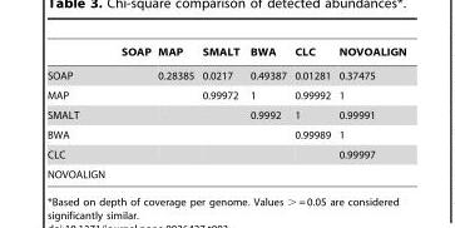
<table><thead><tr><td></td><td>SOAP</td><td>MAP</td><td>SMALT</td><td>BWA</td><td>CLC</td><td>NOVOALIGN</td></tr></thead><tbody><tr><td>SOAP</td><td></td><td>0.28385</td><td>0.0217</td><td>0.49387</td><td>0.01281</td><td>0.37475</td></tr><tr><td>MAP</td><td></td><td></td><td>0.99972</td><td>1</td><td>0.99992</td><td>1</td></tr><tr><td>SMALT</td><td></td><td></td><td></td><td>0.9992</td><td>1</td><td>0.99991</td></tr><tr><td>BWA</td><td></td><td></td><td></td><td></td><td>0.99989</td><td>1</td></tr><tr><td>CLC</td><td></td><td></td><td></td><td></td><td></td><td>0.99997</td></tr><tr><td>NOVOALIGN</td><td></td><td></td><td></td><td></td><td></td><td></td></tr></tbody></table>